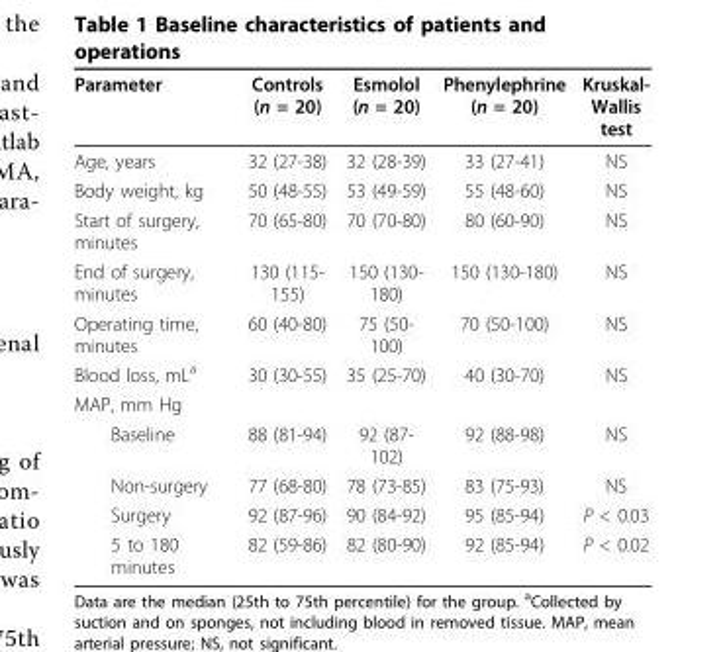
<table><thead><tr><td>Parameter</td><td>Controls (n = 20)</td><td>Esmolol (n = 20)</td><td>Phenylephrine (n = 20)</td><td>Kruskal- Wallis test</td></tr></thead><tbody><tr><td>Age, years</td><td>32 (27-38)</td><td>32 (28-39)</td><td>33 (27-41)</td><td>NS</td></tr><tr><td>Body weight, kg</td><td>50 (48-55)</td><td>53 (49-59)</td><td>55 (48-60)</td><td>NS</td></tr><tr><td>Start of surgery, minutes</td><td>70 (65-80)</td><td>70 (70-80)</td><td>80 (60-90)</td><td>NS</td></tr><tr><td>End of surgery, minutes</td><td>130 (115- 155)</td><td>150 (130- 180)</td><td>150 (130-180)</td><td>NS</td></tr><tr><td>Operating time, minutes</td><td>60 (40-80)</td><td>75 (50- 100)</td><td>70 (50-100)</td><td>NS</td></tr><tr><td>Blood loss, mL<sup>a</sup></td><td>30 (30-55)</td><td>35 (25-70)</td><td>40 (30-70)</td><td>NS</td></tr><tr><td colspan="5">MAP, mm Hg</td></tr><tr><td>Baseline</td><td>88 (81-94)</td><td>92 (87- 102)</td><td>92 (88-98)</td><td>NS</td></tr><tr><td>Non-surgery</td><td>77 (68-80)</td><td>78 (73-85)</td><td>83 (75-93)</td><td>NS</td></tr><tr><td>Surgery</td><td>92 (87-96)</td><td>90 (84-92)</td><td>95 (85-94)</td><td>P &lt; 0.03</td></tr><tr><td>5 to 180 minutes</td><td>82 (59-86)</td><td>82 (80-90)</td><td>92 (85-94)</td><td>P &lt; 0.02</td></tr></tbody></table>